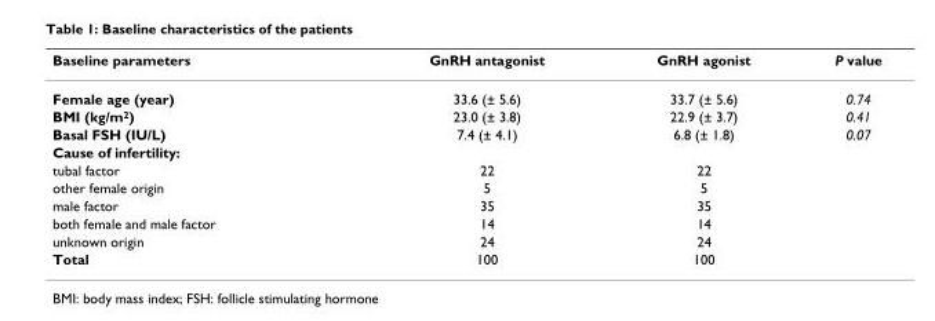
<table><thead><tr><td>Baseline parameters</td><td>GnRH antagonist</td><td>GnRH agonist</td><td>P value</td></tr></thead><tbody><tr><td>Female age (year)</td><td>33.6 (± 5.6)</td><td>33.7 (± 5.6)</td><td>0.74</td></tr><tr><td>BMI (kg/m<sup>2</sup>)</td><td>23.0 (± 3.8)</td><td>22.9 (± 3.7)</td><td>0.41</td></tr><tr><td>Basal FSH (IU/L)</td><td>7.4 (± 4.1)</td><td>6.8 (± 1.8)</td><td>0.07</td></tr><tr><td colspan="4">Cause of infertility:</td></tr><tr><td>tubal factor</td><td>22</td><td>22</td><td></td></tr><tr><td>other female origin</td><td>5</td><td>5</td><td></td></tr><tr><td>male factor</td><td>35</td><td>35</td><td></td></tr><tr><td>both female and male factor</td><td>14</td><td>14</td><td></td></tr><tr><td>unknown origin</td><td>24</td><td>24</td><td></td></tr><tr><td>Total</td><td>100</td><td>100</td><td></td></tr></tbody></table>